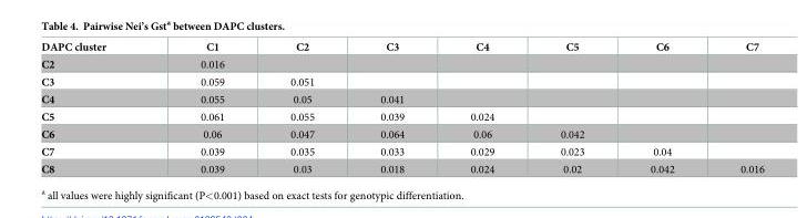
<table><tbody><tr><td>DAPC cluster</td><td>C1</td><td>C2</td><td>C3</td><td>C4</td><td>C5</td><td>C6</td><td>C7</td></tr><tr><td>C2</td><td>0.016</td><td></td><td></td><td></td><td></td><td></td><td></td></tr><tr><td>C3</td><td>0.059</td><td>0.051</td><td></td><td></td><td></td><td></td><td></td></tr><tr><td>C4</td><td>0.055</td><td>0.05</td><td>0.041</td><td></td><td></td><td></td><td></td></tr><tr><td>C5</td><td>0.061</td><td>0.055</td><td>0.039</td><td>0.024</td><td></td><td></td><td></td></tr><tr><td>C6</td><td>0.06</td><td>0.047</td><td>0.064</td><td>0.06</td><td>0.042</td><td></td><td></td></tr><tr><td>C7</td><td>0.039</td><td>0.035</td><td>0.033</td><td>0.029</td><td>0.023</td><td>0.04</td><td></td></tr><tr><td>C8</td><td>0.039</td><td>0.03</td><td>0.018</td><td>0.024</td><td>0.02</td><td>0.042</td><td>0.016</td></tr></tbody></table>